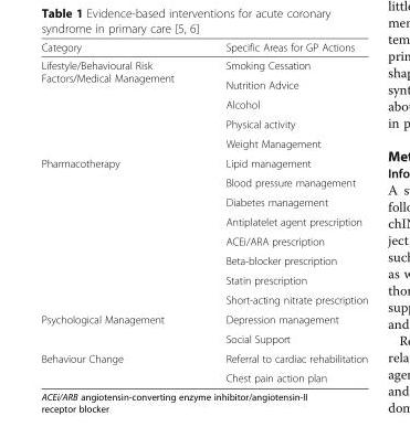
<table><thead><tr><td>Category</td><td>Specific Areas for GP Actions</td></tr></thead><tbody><tr><td rowspan="5">Lifestyle/Behavioural Risk Factors/Medical Management</td><td>Smoking Cessation</td></tr><tr><td>Nutrition Advice</td></tr><tr><td>Alcohol</td></tr><tr><td>Physical activity</td></tr><tr><td>Weight Management</td></tr><tr><td rowspan="8">Pharmacotherapy</td><td>Lipid management</td></tr><tr><td>Blood pressure management</td></tr><tr><td>Diabetes management</td></tr><tr><td>Antiplatelet agent prescription</td></tr><tr><td>ACEi/ARA prescription</td></tr><tr><td>Beta-blocker prescription</td></tr><tr><td>Statin prescription</td></tr><tr><td>Short-acting nitrate prescription</td></tr><tr><td rowspan="2">Psychological Management</td><td>Depression management</td></tr><tr><td>Social Support</td></tr><tr><td rowspan="2">Behaviour Change</td><td>Referral to cardiac rehabilitation</td></tr><tr><td>Chest pain action plan</td></tr></tbody></table>